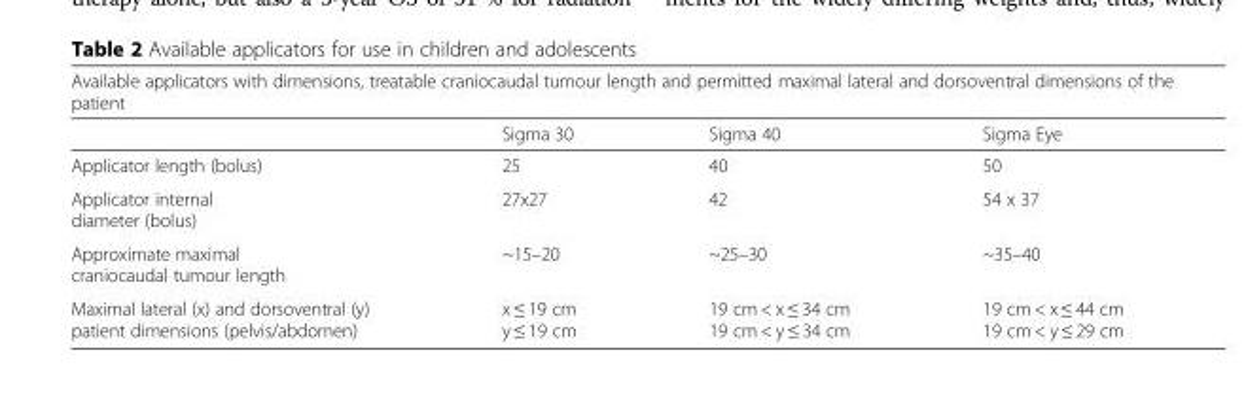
<table><thead><tr><td colspan="4">Available applicators with dimensions, treatable craniocaudal tumour length and permitted maximal lateral and dorsoventral dimensions of the patient</td></tr><tr><td></td><td>Sigma 30</td><td>Sigma 40</td><td>Sigma Eye</td></tr></thead><tbody><tr><td>Applicator length (bolus)</td><td>25</td><td>40</td><td>50</td></tr><tr><td>Applicator internal diameter (bolus)</td><td>27x27</td><td>42</td><td>54 x 37</td></tr><tr><td>Approximate maximal craniocaudal tumour length</td><td>~15–20</td><td>~25–30</td><td>~35–40</td></tr><tr><td>Maximal lateral (x) and dorsoventral (y) patient dimensions (pelvis/abdomen)</td><td>x ≤ 19 cm y ≤ 19 cm</td><td>19 cm &lt; x ≤ 34 cm 19 cm &lt; y ≤ 34 cm</td><td>19 cm &lt; x ≤ 44 cm 19 cm &lt; y ≤ 29 cm</td></tr></tbody></table>